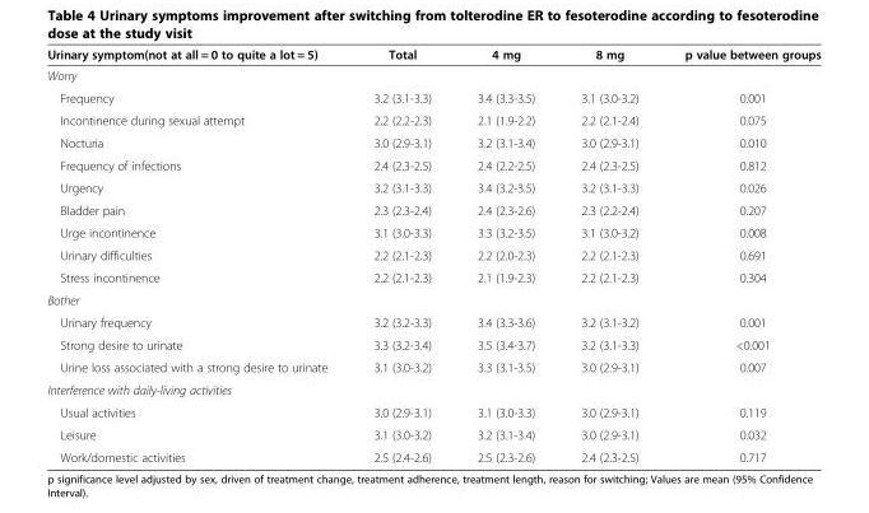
<table><thead><tr><td>Urinary symptom(not at all = 0 to quite a lot = 5)</td><td>Total</td><td>4 mg</td><td>8 mg</td><td>p value between groups</td></tr></thead><tbody><tr><td colspan="5">Worry</td></tr><tr><td>Frequency</td><td>3.2 (3.1-3.3)</td><td>3.4 (3.3-3.5)</td><td>3.1 (3.0-3.2)</td><td>0.001</td></tr><tr><td>Incontinence during sexual attempt</td><td>2.2 (2.2-2.3)</td><td>2.1 (1.9-2.2)</td><td>2.2 (2.1-2.4)</td><td>0.075</td></tr><tr><td>Nocturia</td><td>3.0 (2.9-3.1)</td><td>3.2 (3.1-3.4)</td><td>3.0 (2.9-3.1)</td><td>0.010</td></tr><tr><td>Frequency of infections</td><td>2.4 (2.3-2.5)</td><td>2.4 (2.2-2.5)</td><td>2.4 (2.3-2.5)</td><td>0.812</td></tr><tr><td>Urgency</td><td>3.2 (3.1-3.3)</td><td>3.4 (3.2-3.5)</td><td>3.2 (3.1-3.3)</td><td>0.026</td></tr><tr><td>Bladder pain</td><td>2.3 (2.3-2.4)</td><td>2.4 (2.3-2.6)</td><td>2.3 (2.2-2.4)</td><td>0.207</td></tr><tr><td>Urge incontinence</td><td>3.1 (3.0-3.3)</td><td>3.3 (3.2-3.5)</td><td>3.1 (3.0-3.2)</td><td>0.008</td></tr><tr><td>Urinary difficulties</td><td>2.2 (2.1-2.3)</td><td>2.2 (2.0-2.3)</td><td>2.2 (2.1-2.3)</td><td>0.691</td></tr><tr><td>Stress incontinence</td><td>2.2 (2.1-2.3)</td><td>2.1 (1.9-2.3)</td><td>2.2 (2.1-2.3)</td><td>0.304</td></tr><tr><td colspan="5">Bother</td></tr><tr><td>Urinary frequency</td><td>3.2 (3.2-3.3)</td><td>3.4 (3.3-3.6)</td><td>3.2 (3.1-3.2)</td><td>0.001</td></tr><tr><td>Strong desire to urinate</td><td>3.3 (3.2-3.4)</td><td>3.5 (3.4-3.7)</td><td>3.2 (3.1-3.3)</td><td>&lt;0.001</td></tr><tr><td>Urine loss associated with a strong desire to urinate</td><td>3.1 (3.0-3.2)</td><td>3.3 (3.1-3.5)</td><td>3.0 (2.9-3.1)</td><td>0.007</td></tr><tr><td colspan="5">Interference with daily-living activities</td></tr><tr><td>Usual activities</td><td>3.0 (2.9-3.1)</td><td>3.1 (3.0-3.3)</td><td>3.0 (2.9-3.1)</td><td>0.119</td></tr><tr><td>Leisure</td><td>3.1 (3.0-3.2)</td><td>3.2 (3.1-3.4)</td><td>3.0 (2.9-3.1)</td><td>0.032</td></tr><tr><td>Work/domestic activities</td><td>2.5 (2.4-2.6)</td><td>2.5 (2.3-2.6)</td><td>2.4 (2.3-2.5)</td><td>0.717</td></tr></tbody></table>